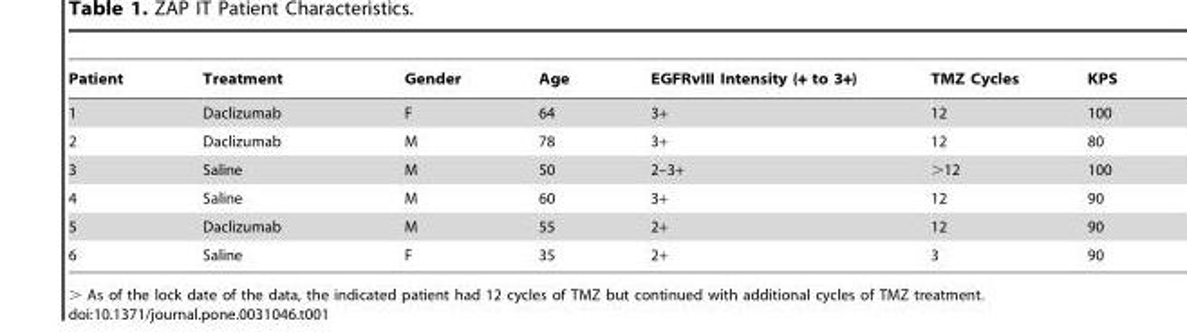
<table><thead><tr><td>Patient</td><td>Treatment</td><td>Gender</td><td>Age</td><td>EGFRvIII Intensity (+ to 3+)</td><td>TMZ Cycles</td><td>KPS</td></tr></thead><tbody><tr><td>1</td><td>Daclizumab</td><td>F</td><td>64</td><td>3+</td><td>12</td><td>100</td></tr><tr><td>2</td><td>Daclizumab</td><td>M</td><td>78</td><td>3+</td><td>12</td><td>80</td></tr><tr><td>3</td><td>Saline</td><td>M</td><td>50</td><td>2–3+</td><td>&gt;12</td><td>100</td></tr><tr><td>4</td><td>Saline</td><td>M</td><td>60</td><td>3+</td><td>12</td><td>90</td></tr><tr><td>5</td><td>Daclizumab</td><td>M</td><td>55</td><td>2+</td><td>12</td><td>90</td></tr><tr><td>6</td><td>Saline</td><td>F</td><td>35</td><td>2+</td><td>3</td><td>90</td></tr></tbody></table>